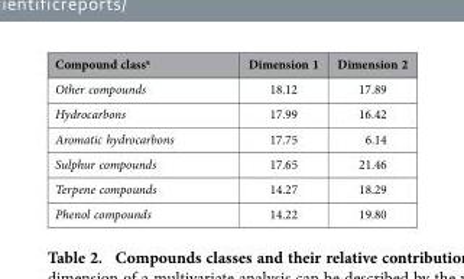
<table><thead><tr><td>Compound class<sup>a</sup></td><td>Dimension 1</td><td>Dimension 2</td></tr></thead><tbody><tr><td>Other compounds</td><td>18.12</td><td>17.89</td></tr><tr><td>Hydrocarbons</td><td>17.99</td><td>16.42</td></tr><tr><td>Aromatic hydrocarbons</td><td>17.75</td><td>6.14</td></tr><tr><td>Sulphur compounds</td><td>17.65</td><td>21.46</td></tr><tr><td>Terpene compounds</td><td>14.27</td><td>18.29</td></tr><tr><td>Phenol compounds</td><td>14.22</td><td>19.80</td></tr></tbody></table>